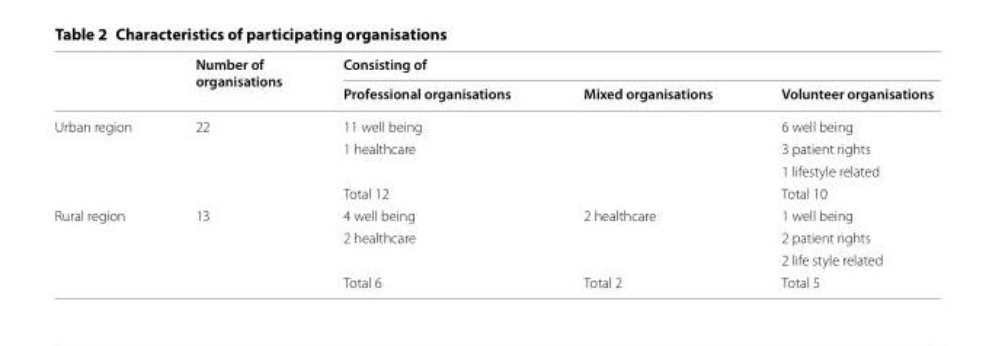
<table><thead><tr><td rowspan="2"></td><td rowspan="2">Number of organisations</td><td colspan="3">Consisting of</td></tr><tr><td>Professional organisations</td><td>Mixed organisations</td><td>Volunteer organisations</td></tr></thead><tbody><tr><td rowspan="4">Urban region</td><td rowspan="4">22</td><td>11 well being</td><td rowspan="4"></td><td>6 well being</td></tr><tr><td>1 healthcare</td><td>3 patient rights</td></tr><tr><td></td><td>1 lifestyle related</td></tr><tr><td>Total 12</td><td>Total 10</td></tr><tr><td rowspan="4">Rural region</td><td rowspan="4">13</td><td>4 well being</td><td>2 healthcare</td><td>1 well being</td></tr><tr><td>2 healthcare</td><td></td><td>2 patient rights</td></tr><tr><td></td><td></td><td>2 life style related</td></tr><tr><td>Total 6</td><td>Total 2</td><td>Total 5</td></tr></tbody></table>